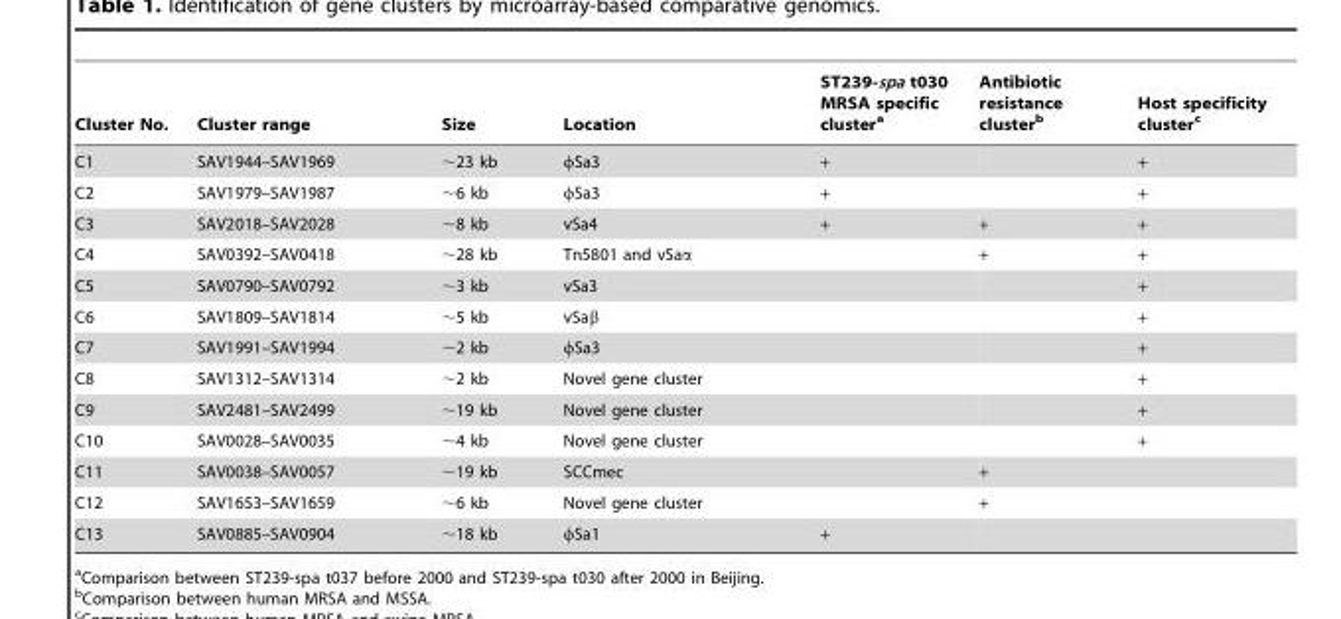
<table><thead><tr><td>Cluster No.</td><td>Cluster range</td><td>Size</td><td>Location</td><td>ST239-spa t030 MRSA specific cluster<sup>a</sup></td><td>Antibiotic resistance cluster<sup>b</sup></td><td>Host specificity cluster<sup>c</sup></td></tr></thead><tbody><tr><td>C1</td><td>SAV1944–SAV1969</td><td>∼23 kb</td><td>ϕSa3</td><td>+</td><td></td><td>+</td></tr><tr><td>C2</td><td>SAV1979–SAV1987</td><td>∼6 kb</td><td>ϕSa3</td><td>+</td><td></td><td>+</td></tr><tr><td>C3</td><td>SAV2018–SAV2028</td><td>∼8 kb</td><td>vSa4</td><td>+</td><td>+</td><td>+</td></tr><tr><td>C4</td><td>SAV0392–SAV0418</td><td>∼28 kb</td><td>Tn5801 and vSaα</td><td></td><td>+</td><td>+</td></tr><tr><td>C5</td><td>SAV0790–SAV0792</td><td>∼3 kb</td><td>vSa3</td><td></td><td></td><td>+</td></tr><tr><td>C6</td><td>SAV1809–SAV1814</td><td>∼5 kb</td><td>vSaβ</td><td></td><td></td><td>+</td></tr><tr><td>C7</td><td>SAV1991–SAV1994</td><td>∼2 kb</td><td>ϕSa3</td><td></td><td></td><td>+</td></tr><tr><td>C8</td><td>SAV1312–SAV1314</td><td>∼2 kb</td><td>Novel gene cluster</td><td></td><td></td><td>+</td></tr><tr><td>C9</td><td>SAV2481–SAV2499</td><td>∼19 kb</td><td>Novel gene cluster</td><td></td><td></td><td>+</td></tr><tr><td>C10</td><td>SAV0028–SAV0035</td><td>∼4 kb</td><td>Novel gene cluster</td><td></td><td></td><td>+</td></tr><tr><td>C11</td><td>SAV0038–SAV0057</td><td>∼19 kb</td><td>SCCmec</td><td></td><td>+</td><td></td></tr><tr><td>C12</td><td>SAV1653–SAV1659</td><td>∼6 kb</td><td>Novel gene cluster</td><td></td><td>+</td><td></td></tr><tr><td>C13</td><td>SAV0885–SAV0904</td><td>∼18 kb</td><td>ϕSa1</td><td>+</td><td></td><td></td></tr></tbody></table>